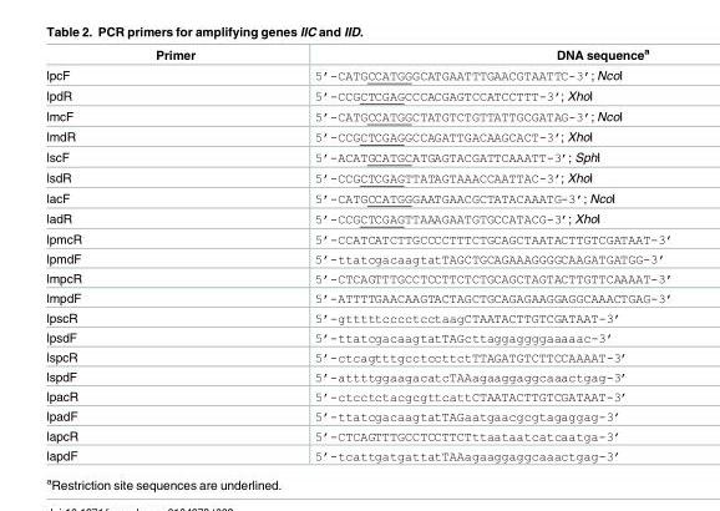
<table><thead><tr><td>Primer</td><td>DNA sequence<sup>a</sup></td></tr></thead><tbody><tr><td>lpcF</td><td>5’-CATGCCATGGGCATGAATTTGAACGTAATTC-3’; NcoI</td></tr><tr><td>lpdR</td><td>5’-CCGCTCGAGCCCACGAGTCCATCCTTT-3’; XhoI</td></tr><tr><td>lmcF</td><td>5’-CATGCCATGGCTATGTCTGTTATTGCGATAG-3’; NcoI</td></tr><tr><td>lmdR</td><td>5’-CCGCTCGAGGCCAGATTGACAAGCACT-3’; XhoI</td></tr><tr><td>lscF</td><td>5’-ACATGCATGCATGAGTACGATTCAAATT-3’; SphI</td></tr><tr><td>lsdR</td><td>5’-CCGCTCGAGTTATAGTAAACCAATTAC-3’; XhoI</td></tr><tr><td>lacF</td><td>5’-CATGCCATGGGAATGAACGCTATACAAATG-3’; NcoI</td></tr><tr><td>ladR</td><td>5’-CCGCTCGAGTTAAAGAATGTGCCATACG-3’; XhoI</td></tr><tr><td>lpmcR</td><td>5’-CCATCATCTTGCCCCTTTCTGCAGCTAATACTTGTCGATAAT-3’</td></tr><tr><td>lpmdF</td><td>5’-ttatcgacaagtatTAGCTGCAGAAAGGGGCAAGATGATGG-3’</td></tr><tr><td>lmpcR</td><td>5’-CTCAGTTTGCCTCCTTCTCTGCAGCTAGTACTTGTTCAAAAT-3’</td></tr><tr><td>lmpdF</td><td>5’-ATTTTGAACAAGTACTAGCTGCAGAGAAGGAGGCAAACTGAG-3’</td></tr><tr><td>lpscR</td><td>5’-gtttttcccctcctaagCTAATACTTGTCGATAAT-3’</td></tr><tr><td>lpsdF</td><td>5’-ttatcgacaagtatTAGcttaggaggggaaaaac-3’</td></tr><tr><td>lspcR</td><td>5’-ctcagtttgcctccttctTTAGATGTCTTCCAAAAT-3’</td></tr><tr><td>lspdF</td><td>5’-attttggaagacatcTAAagaaggaggcaaactgag-3’</td></tr><tr><td>lpacR</td><td>5’-ctcctctacgcgttcattCTAATACTTGTCGATAAT-3’</td></tr><tr><td>lpadF</td><td>5’-ttatcgacaagtatTAGaatgaacgcgtagaggag-3’</td></tr><tr><td>lapcR</td><td>5’-CTCAGTTTGCCTCCTTCTttaataatcatcaatga-3’</td></tr><tr><td>lapdF</td><td>5’-tcattgatgattatTAAagaaggaggcaaactgag-3’</td></tr></tbody></table>